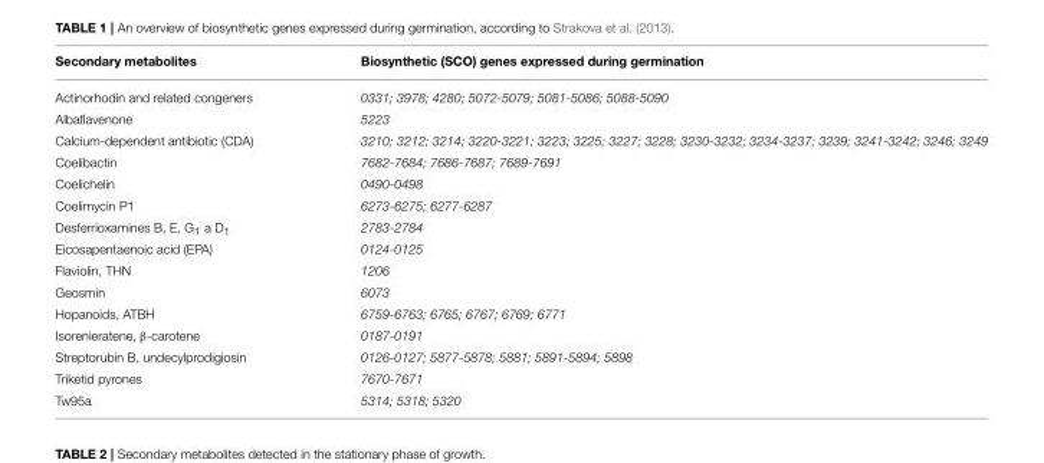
<table><thead><tr><td>Secondary metabolites</td><td>Biosynthetic (SCO) genes expressed during germination</td></tr></thead><tbody><tr><td>Actinorhodin and related congeners</td><td>0331; 3978; 4280; 5072-5079; 5081-5086; 5088-5090</td></tr><tr><td>Albaflavenone</td><td>5223</td></tr><tr><td>Calcium-dependent antibiotic (CDA)</td><td>3210; 3212; 3214; 3220-3221; 3223; 3225; 3227; 3228; 3230-3232; 3234-3237; 3239; 3241-3242; 3246; 3249</td></tr><tr><td>Coelibactin</td><td>7682-7684; 7686-7687; 7689-7691</td></tr><tr><td>Coelichelin</td><td>0490-0498</td></tr><tr><td>Coelimycin P1</td><td>6273-6275; 6277-6287</td></tr><tr><td>Desferrioxamines B, E, G<sub>1</sub> a D<sub>1</sub></td><td>2783-2784</td></tr><tr><td>Eicosapentaenoic acid (EPA)</td><td>0124-0125</td></tr><tr><td>Flaviolin, THN</td><td>1206</td></tr><tr><td>Geosmin</td><td>6073</td></tr><tr><td>Hopanoids, ATBH</td><td>6759-6763; 6765; 6767; 6769; 6771</td></tr><tr><td>Isorenieratene, β-carotene</td><td>0187-0191</td></tr><tr><td>Streptorubin B, undecylprodigiosin</td><td>0126-0127; 5877-5878; 5881; 5891-5894; 5898</td></tr><tr><td>Triketid pyrones</td><td>7670-7671</td></tr><tr><td>Tw95a</td><td>5314; 5318; 5320</td></tr></tbody></table>